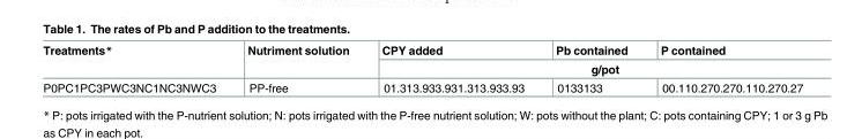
<table><thead><tr><td rowspan="2">Treatments*</td><td rowspan="2">Nutriment solution</td><td>CPY added</td><td>Pb contained</td><td>P contained</td></tr><tr><td colspan="3">g/pot</td></tr></thead><tbody><tr><td>P0PC1PC3PWC3NC1NC3NWC3</td><td>PP-free</td><td>01.313.933.931.313.933.93</td><td>0133133</td><td>00.110.270.270.110.270.27</td></tr></tbody></table>